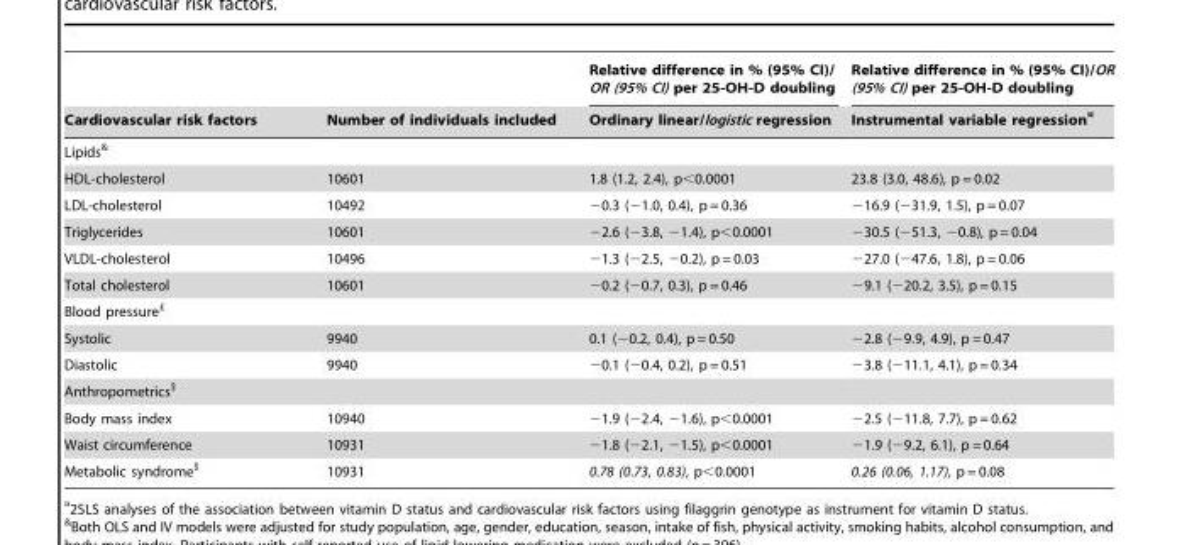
<table><thead><tr><td rowspan="2">Cardiovascular risk factors</td><td rowspan="2">Number of individuals included</td><td rowspan="2">Relative difference in % (95% CI)/ OR (95% CI) per 25-OH-D doubling Ordinary linear/logistic regression</td><td rowspan="2">Relative difference in % (95% CI)/OR (95% CI) per 25-OH-D doubling Instrumental variable regression¤</td></tr><tr></tr></thead><tbody><tr><td colspan="4">Lipids&amp;</td></tr><tr><td>HDL-cholesterol</td><td>10601</td><td>1.8 (1.2, 2.4), p&lt;0.0001</td><td>23.8 (3.0, 48.6), p = 0.02</td></tr><tr><td>LDL-cholesterol</td><td>10492</td><td>−0.3 (−1.0, 0.4), p = 0.36</td><td>−16.9 (−31.9, 1.5), p = 0.07</td></tr><tr><td>Triglycerides</td><td>10601</td><td>−2.6 (−3.8, −1.4), p&lt;0.0001</td><td>−30.5 (−51.3, −0.8), p = 0.04</td></tr><tr><td>VLDL-cholesterol</td><td>10496</td><td>−1.3 (−2.5, −0.2), p = 0.03</td><td>−27.0 (−47.6, 1.8), p = 0.06</td></tr><tr><td>Total cholesterol</td><td>10601</td><td>−0.2 (−0.7, 0.3), p = 0.46</td><td>−9.1 (−20.2, 3.5), p = 0.15</td></tr><tr><td colspan="4">Blood pressure£</td></tr><tr><td>Systolic</td><td>9940</td><td>0.1 (−0.2, 0.4), p = 0.50</td><td>−2.8 (−9.9, 4.9), p = 0.47</td></tr><tr><td>Diastolic</td><td>9940</td><td>−0.1 (−0.4, 0.2), p = 0.51</td><td>−3.8 (−11.1, 4.1), p = 0.34</td></tr><tr><td colspan="4">Anthropometrics$</td></tr><tr><td>Body mass index</td><td>10940</td><td>−1.9 (−2.4, −1.6), p&lt;0.0001</td><td>−2.5 (−11.8, 7.7), p = 0.62</td></tr><tr><td>Waist circumference</td><td>10931</td><td>−1.8 (−2.1, −1.5), p&lt;0.0001</td><td>−1.9 (−9.2, 6.1), p = 0.64</td></tr><tr><td>Metabolic syndrome$</td><td>10931</td><td>0.78 (0.73, 0.83), p&lt;0.0001</td><td>0.26 (0.06, 1.17), p = 0.08</td></tr></tbody></table>